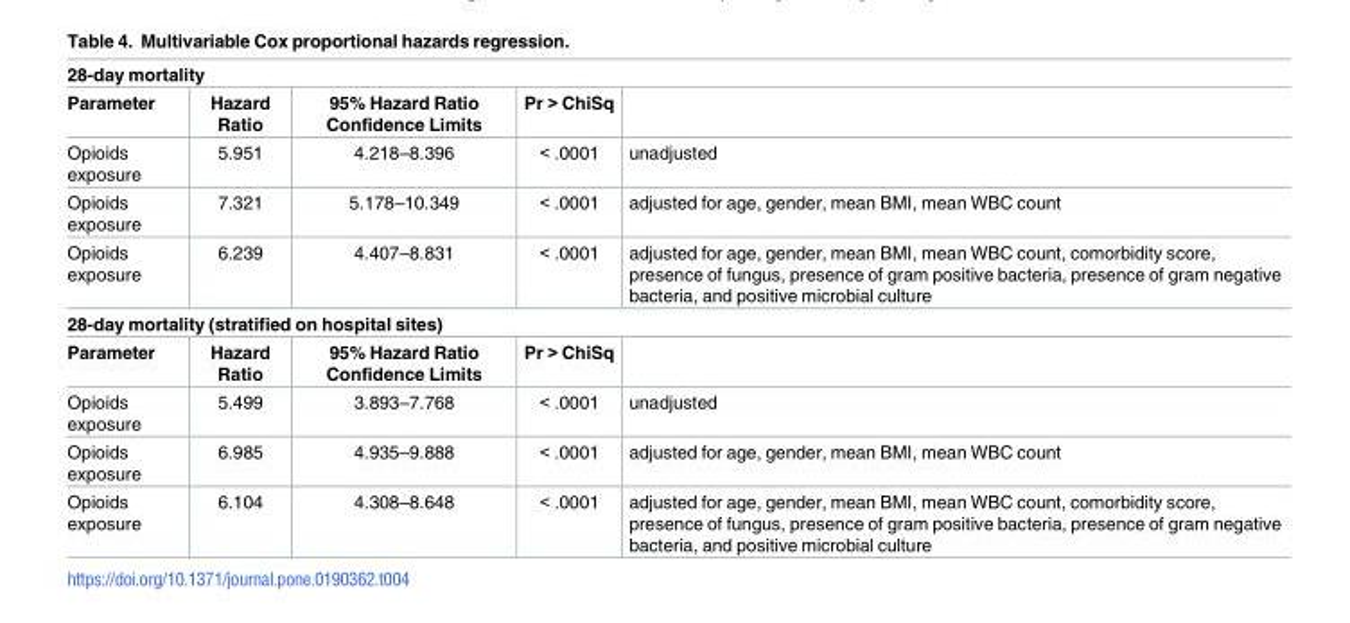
<table><tbody><tr><td colspan="5">28-day mortality</td></tr><tr><td>Parameter</td><td>Hazard Ratio</td><td>95% Hazard Ratio Confidence Limits</td><td>Pr &gt; ChiSq</td><td></td></tr><tr><td>Opioids exposure</td><td>5.951</td><td>4.218–8.396</td><td>&lt; .0001</td><td>unadjusted</td></tr><tr><td>Opioids exposure</td><td>7.321</td><td>5.178–10.349</td><td>&lt; .0001</td><td>adjusted for age, gender, mean BMI, mean WBC count</td></tr><tr><td>Opioids exposure</td><td>6.239</td><td>4.407–8.831</td><td>&lt; .0001</td><td>adjusted for age, gender, mean BMI, mean WBC count, comorbidity score, presence of fungus, presence of gram positive bacteria, presence of gram negative bacteria, and positive microbial culture</td></tr><tr><td colspan="5">28-day mortality (stratified on hospital sites)</td></tr><tr><td>Parameter</td><td>Hazard Ratio</td><td>95% Hazard Ratio Confidence Limits</td><td>Pr &gt; ChiSq</td><td></td></tr><tr><td>Opioids exposure</td><td>5.499</td><td>3.893–7.768</td><td>&lt; .0001</td><td>unadjusted</td></tr><tr><td>Opioids exposure</td><td>6.985</td><td>4.935–9.888</td><td>&lt; .0001</td><td>adjusted for age, gender, mean BMI, mean WBC count</td></tr><tr><td>Opioids exposure</td><td>6.104</td><td>4.308–8.648</td><td>&lt; .0001</td><td>adjusted for age, gender, mean BMI, mean WBC count, comorbidity score, presence of fungus, presence of gram positive bacteria, presence of gram negative bacteria, and positive microbial culture</td></tr></tbody></table>